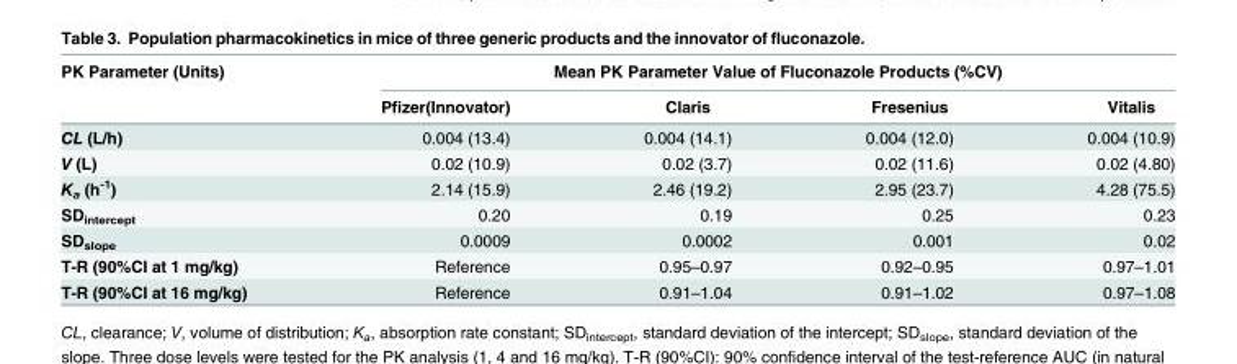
<table><thead><tr><td rowspan="2">PK Parameter (Units)</td><td colspan="4">Mean PK Parameter Value of Fluconazole Products (%CV)</td></tr><tr><td>Pfizer(Innovator)</td><td>Claris</td><td>Fresenius</td><td>Vitalis</td></tr></thead><tbody><tr><td>CL (L/h)</td><td>0.004 (13.4)</td><td>0.004 (14.1)</td><td>0.004 (12.0)</td><td>0.004 (10.9)</td></tr><tr><td>V (L)</td><td>0.02 (10.9)</td><td>0.02 (3.7)</td><td>0.02 (11.6)</td><td>0.02 (4.80)</td></tr><tr><td>K<sub>a</sub> (h<sup>-1</sup>)</td><td>2.14 (15.9)</td><td>2.46 (19.2)</td><td>2.95 (23.7)</td><td>4.28 (75.5)</td></tr><tr><td>SD<sub>intercept</sub></td><td>0.20</td><td>0.19</td><td>0.25</td><td>0.23</td></tr><tr><td>SD<sub>slope</sub></td><td>0.0009</td><td>0.0002</td><td>0.001</td><td>0.02</td></tr><tr><td>T-R (90%CI at 1 mg/kg)</td><td>Reference</td><td>0.95–0.97</td><td>0.92–0.95</td><td>0.97–1.01</td></tr><tr><td>T-R (90%CI at 16 mg/kg)</td><td>Reference</td><td>0.91–1.04</td><td>0.91–1.02</td><td>0.97–1.08</td></tr></tbody></table>